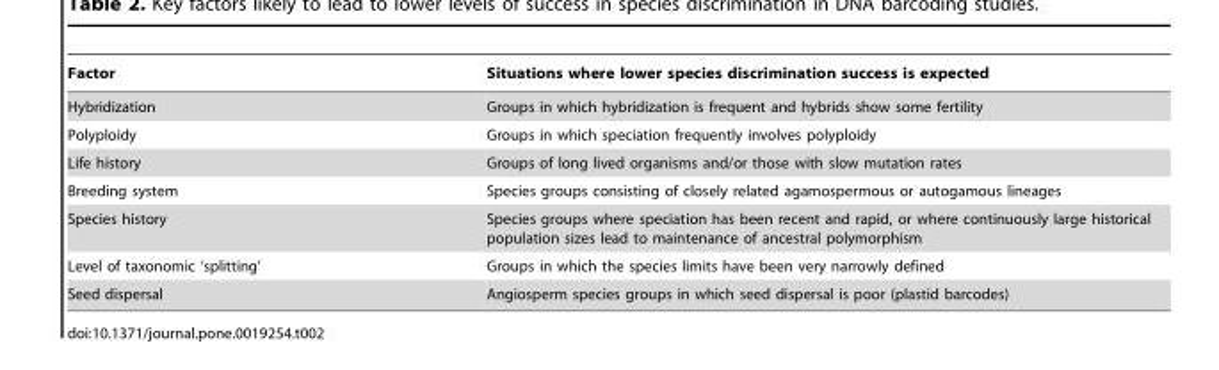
<table><thead><tr><td>Factor</td><td>Situations where lower species discrimination success is expected</td></tr></thead><tbody><tr><td>Hybridization</td><td>Groups in which hybridization is frequent and hybrids show some fertility</td></tr><tr><td>Polyploidy</td><td>Groups in which speciation frequently involves polyploidy</td></tr><tr><td>Life history</td><td>Groups of long lived organisms and/or those with slow mutation rates</td></tr><tr><td>Breeding system</td><td>Species groups consisting of closely related agamospermous or autogamous lineages</td></tr><tr><td>Species history</td><td>Species groups where speciation has been recent and rapid, or where continuously large historical population sizes lead to maintenance of ancestral polymorphism</td></tr><tr><td>Level of taxonomic ‘splitting’</td><td>Groups in which the species limits have been very narrowly defined</td></tr><tr><td>Seed dispersal</td><td>Angiosperm species groups in which seed dispersal is poor (plastid barcodes)</td></tr></tbody></table>